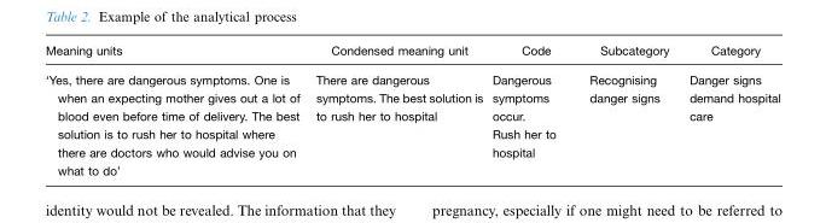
<table><thead><tr><td>Meaning units</td><td>Condensed meaning unit</td><td>Code</td><td>Subcategory</td><td>Category</td></tr></thead><tbody><tr><td>‘Yes, there are dangerous symptoms. One is when an expecting mother gives out a lot of blood even before time of delivery. The best solution is to rush her to hospital where there are doctors who would advise you on what to do’</td><td>There are dangerous symptoms. The best solution is to rush her to hospital</td><td>Dangerous symptoms occur. Rush her to hospital</td><td>Recognising danger signs</td><td>Danger signs demand hospital care</td></tr></tbody></table>